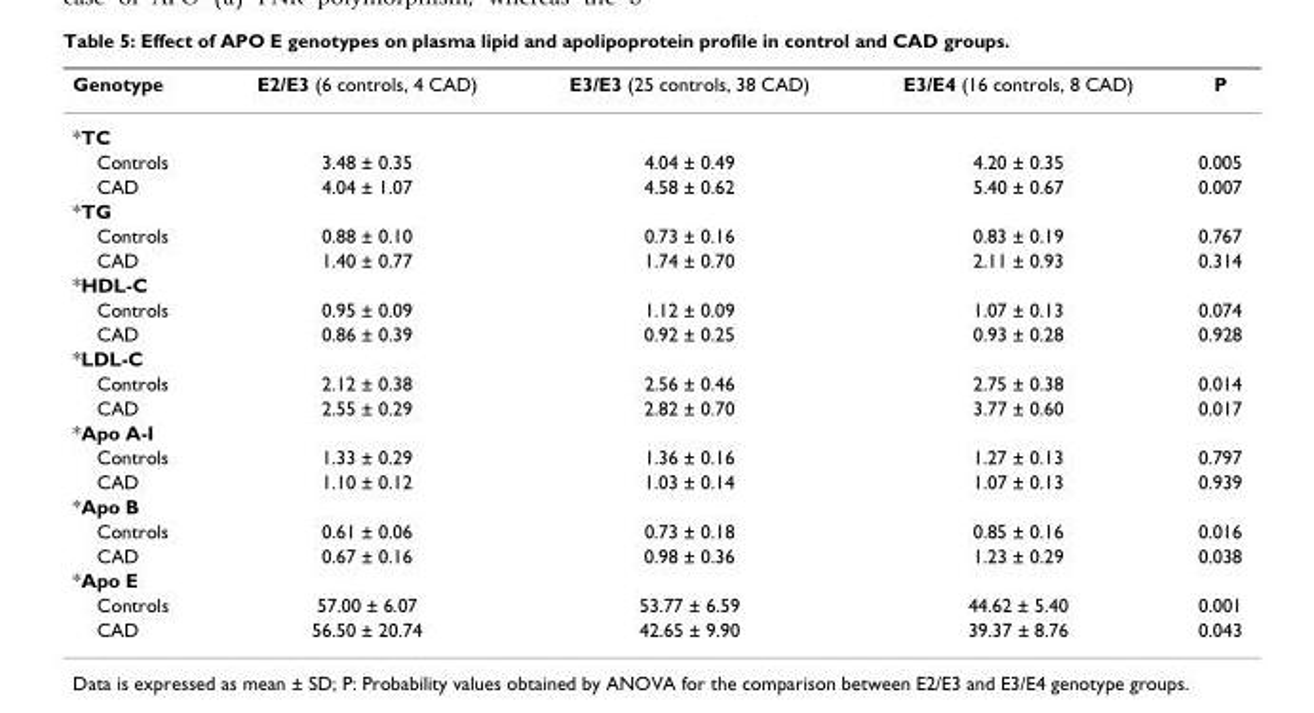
<table><thead><tr><td>Genotype</td><td>E2/E3 (6 controls, 4 CAD)</td><td>E3/E3 (25 controls, 38 CAD)</td><td>E3/E4 (16 controls, 8 CAD)</td><td>P</td></tr></thead><tbody><tr><td colspan="5">*TC</td></tr><tr><td>Controls</td><td>3.48 ± 0.35</td><td>4.04 ± 0.49</td><td>4.20 ± 0.35</td><td>0.005</td></tr><tr><td>CAD</td><td>4.04 ± 1.07</td><td>4.58 ± 0.62</td><td>5.40 ± 0.67</td><td>0.007</td></tr><tr><td colspan="5">*TG</td></tr><tr><td>Controls</td><td>0.88 ± 0.10</td><td>0.73 ± 0.16</td><td>0.83 ± 0.19</td><td>0.767</td></tr><tr><td>CAD</td><td>1.40 ± 0.77</td><td>1.74 ± 0.70</td><td>2.11 ± 0.93</td><td>0.314</td></tr><tr><td colspan="5">*HDL-C</td></tr><tr><td>Controls</td><td>0.95 ± 0.09</td><td>1.12 ± 0.09</td><td>1.07 ± 0.13</td><td>0.074</td></tr><tr><td>CAD</td><td>0.86 ± 0.39</td><td>0.92 ± 0.25</td><td>0.93 ± 0.28</td><td>0.928</td></tr><tr><td colspan="5">*LDL-C</td></tr><tr><td>Controls</td><td>2.12 ± 0.38</td><td>2.56 ± 0.46</td><td>2.75 ± 0.38</td><td>0.014</td></tr><tr><td>CAD</td><td>2.55 ± 0.29</td><td>2.82 ± 0.70</td><td>3.77 ± 0.60</td><td>0.017</td></tr><tr><td colspan="5">*Apo A-I</td></tr><tr><td>Controls</td><td>1.33 ± 0.29</td><td>1.36 ± 0.16</td><td>1.27 ± 0.13</td><td>0.797</td></tr><tr><td>CAD</td><td>1.10 ± 0.12</td><td>1.03 ± 0.14</td><td>1.07 ± 0.13</td><td>0.939</td></tr><tr><td colspan="5">*Apo B</td></tr><tr><td>Controls</td><td>0.61 ± 0.06</td><td>0.73 ± 0.18</td><td>0.85 ± 0.16</td><td>0.016</td></tr><tr><td>CAD</td><td>0.67 ± 0.16</td><td>0.98 ± 0.36</td><td>1.23 ± 0.29</td><td>0.038</td></tr><tr><td colspan="5">*Apo E</td></tr><tr><td>Controls</td><td>57.00 ± 6.07</td><td>53.77 ± 6.59</td><td>44.62 ± 5.40</td><td>0.001</td></tr><tr><td>CAD</td><td>56.50 ± 20.74</td><td>42.65 ± 9.90</td><td>39.37 ± 8.76</td><td>0.043</td></tr></tbody></table>